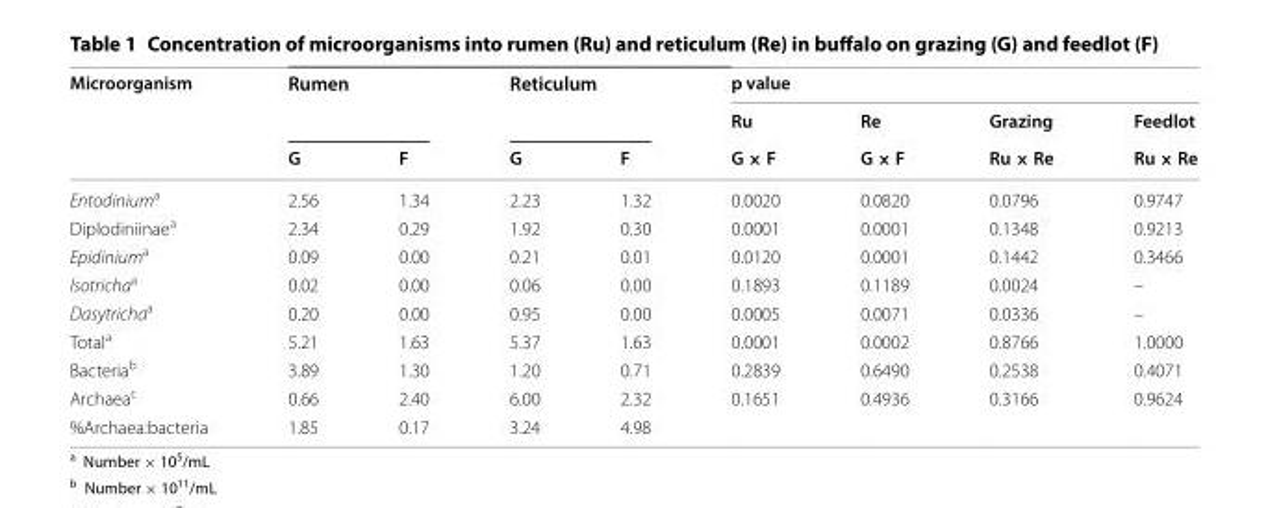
<table><thead><tr><td rowspan="3">Microorganism</td><td rowspan="2" colspan="2">Rumen</td><td rowspan="2" colspan="2">Reticulum</td><td colspan="4">p value</td></tr><tr><td rowspan="2">Ru G × F</td><td rowspan="2">Re G × F</td><td rowspan="2">Grazing Ru × Re</td><td rowspan="2">Feedlot Ru × Re</td></tr><tr><td>G</td><td>F</td><td>G</td><td>F</td></tr></thead><tbody><tr><td>Entodinium<sup>a</sup></td><td>2.56</td><td>1.34</td><td>2.23</td><td>1.32</td><td>0.0020</td><td>0.0820</td><td>0.0796</td><td>0.9747</td></tr><tr><td>Diplodiniinae<sup>a</sup></td><td>2.34</td><td>0.29</td><td>1.92</td><td>0.30</td><td>0.0001</td><td>0.0001</td><td>0.1348</td><td>0.9213</td></tr><tr><td>Epidinium<sup>a</sup></td><td>0.09</td><td>0.00</td><td>0.21</td><td>0.01</td><td>0.0120</td><td>0.0001</td><td>0.1442</td><td>0.3466</td></tr><tr><td>Isotricha<sup>a</sup></td><td>0.02</td><td>0.00</td><td>0.06</td><td>0.00</td><td>0.1893</td><td>0.1189</td><td>0.0024</td><td>–</td></tr><tr><td>Dasytricha<sup>a</sup></td><td>0.20</td><td>0.00</td><td>0.95</td><td>0.00</td><td>0.0005</td><td>0.0071</td><td>0.0336</td><td>–</td></tr><tr><td>Total<sup>a</sup></td><td>5.21</td><td>1.63</td><td>5.37</td><td>1.63</td><td>0.0001</td><td>0.0002</td><td>0.8766</td><td>1.0000</td></tr><tr><td>Bacteria<sup>b</sup></td><td>3.89</td><td>1.30</td><td>1.20</td><td>0.71</td><td>0.2839</td><td>0.6490</td><td>0.2538</td><td>0.4071</td></tr><tr><td>Archaea<sup>c</sup></td><td>0.66</td><td>2.40</td><td>6.00</td><td>2.32</td><td>0.1651</td><td>0.4936</td><td>0.3166</td><td>0.9624</td></tr><tr><td>%Archaea:bacteria</td><td>1.85</td><td>0.17</td><td>3.24</td><td>4.98</td><td></td><td></td><td></td><td></td></tr></tbody></table>